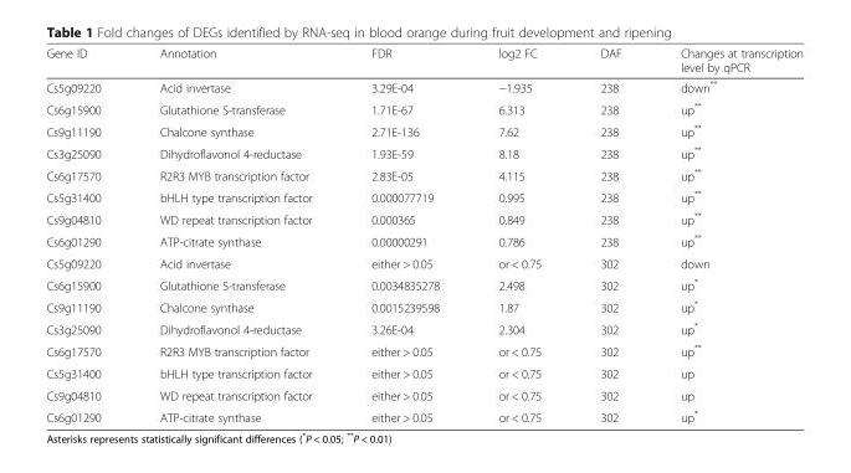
<table><thead><tr><td>Gene ID</td><td>Annotation</td><td>FDR</td><td>log2 FC</td><td>DAF</td><td>Changes at transcription level by qPCR</td></tr></thead><tbody><tr><td>Cs5g09220</td><td>Acid invertase</td><td>3.29E-04</td><td>−1.935</td><td>238</td><td>down**</td></tr><tr><td>Cs6g15900</td><td>Glutathione S-transferase</td><td>1.71E-67</td><td>6.313</td><td>238</td><td>up**</td></tr><tr><td>Cs9g11190</td><td>Chalcone synthase</td><td>2.71E-136</td><td>7.62</td><td>238</td><td>up**</td></tr><tr><td>Cs3g25090</td><td>Dihydroflavonol 4-reductase</td><td>1.93E-59</td><td>8.18</td><td>238</td><td>up**</td></tr><tr><td>Cs6g17570</td><td>R2R3 MYB transcription factor</td><td>2.83E-05</td><td>4.115</td><td>238</td><td>up**</td></tr><tr><td>Cs5g31400</td><td>bHLH type transcription factor</td><td>0.000077719</td><td>0.995</td><td>238</td><td>up**</td></tr><tr><td>Cs9g04810</td><td>WD repeat transcription factor</td><td>0.000365</td><td>0.849</td><td>238</td><td>up**</td></tr><tr><td>Cs6g01290</td><td>ATP-citrate synthase</td><td>0.00000291</td><td>0.786</td><td>238</td><td>up**</td></tr><tr><td>Cs5g09220</td><td>Acid invertase</td><td>either &gt; 0.05</td><td>or &lt; 0.75</td><td>302</td><td>down</td></tr><tr><td>Cs6g15900</td><td>Glutathione S-transferase</td><td>0.0034835278</td><td>2.498</td><td>302</td><td>up*</td></tr><tr><td>Cs9g11190</td><td>Chalcone synthase</td><td>0.0015239598</td><td>1.87</td><td>302</td><td>up*</td></tr><tr><td>Cs3g25090</td><td>Dihydroflavonol 4-reductase</td><td>3.26E-04</td><td>2.304</td><td>302</td><td>up*</td></tr><tr><td>Cs6g17570</td><td>R2R3 MYB transcription factor</td><td>either &gt; 0.05</td><td>or &lt; 0.75</td><td>302</td><td>up**</td></tr><tr><td>Cs5g31400</td><td>bHLH type transcription factor</td><td>either &gt; 0.05</td><td>or &lt; 0.75</td><td>302</td><td>up</td></tr><tr><td>Cs9g04810</td><td>WD repeat transcription factor</td><td>either &gt; 0.05</td><td>or &lt; 0.75</td><td>302</td><td>up</td></tr><tr><td>Cs6g01290</td><td>ATP-citrate synthase</td><td>either &gt; 0.05</td><td>or &lt; 0.75</td><td>302</td><td>up*</td></tr></tbody></table>